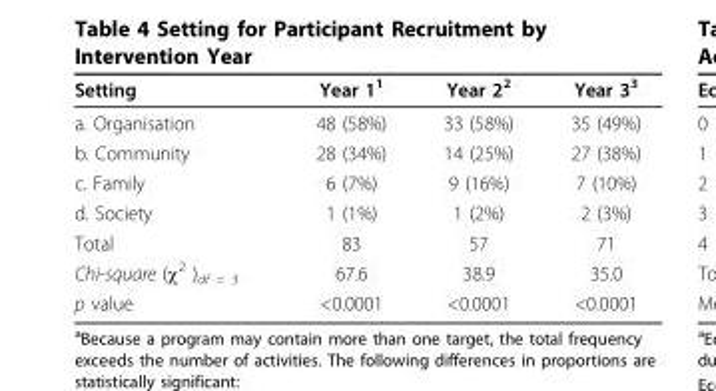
<table><thead><tr><td>Setting</td><td>Year 1<sup>1</sup></td><td>Year 2<sup>2</sup></td><td>Year 3<sup>3</sup></td></tr></thead><tbody><tr><td>a. Organisation</td><td>48 (58%)</td><td>33 (58%)</td><td>35 (49%)</td></tr><tr><td>b. Community</td><td>28 (34%)</td><td>14 (25%)</td><td>27 (38%)</td></tr><tr><td>c. Family</td><td>6 (7%)</td><td>9 (16%)</td><td>7 (10%)</td></tr><tr><td>d. Society</td><td>1 (1%)</td><td>1 (2%)</td><td>2 (3%)</td></tr><tr><td>Total</td><td>83</td><td>57</td><td>71</td></tr><tr><td>Chi-square (χ<sup>2</sup> )<sub>df = 3</sub></td><td>67.6</td><td>38.9</td><td>35.0</td></tr><tr><td>p value</td><td>&lt;0.0001</td><td>&lt;0.0001</td><td>&lt;0.0001</td></tr></tbody></table>